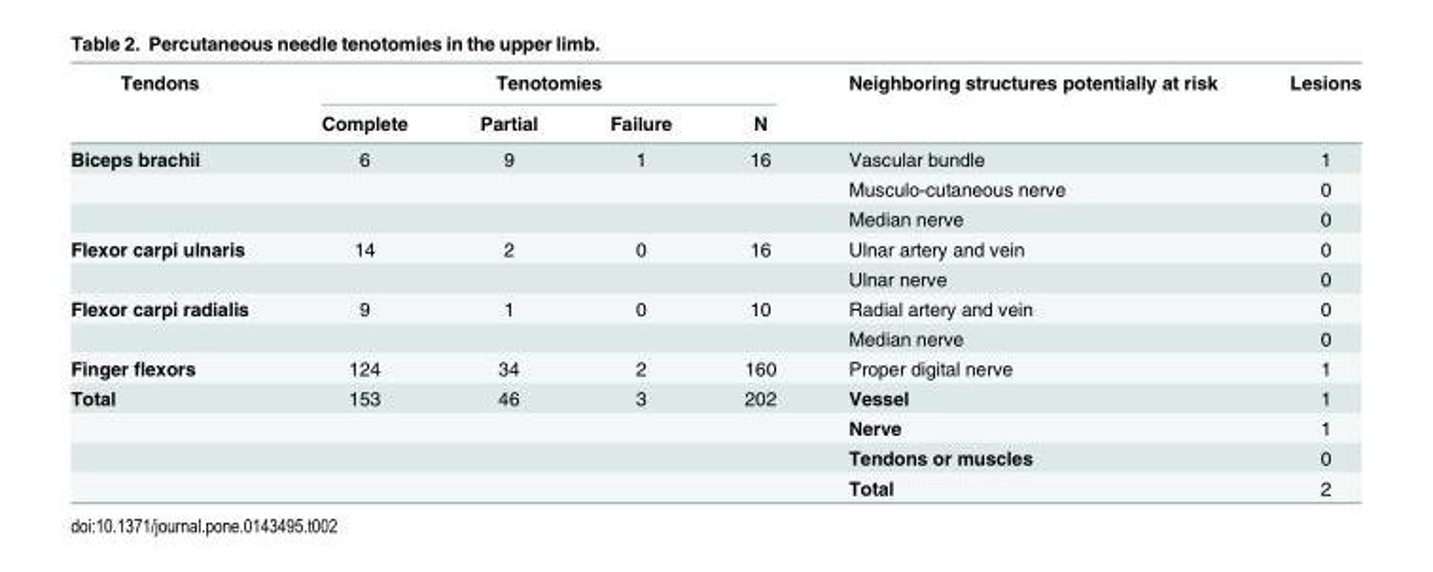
<table><thead><tr><td rowspan="2">Tendons</td><td colspan="4">Tenotomies</td><td rowspan="2">Neighboring structures potentially at risk</td><td rowspan="2">Lesions</td></tr><tr><td>Complete</td><td>Partial</td><td>Failure</td><td>N</td></tr></thead><tbody><tr><td rowspan="3">Biceps brachii</td><td>6</td><td>9</td><td>1</td><td>16</td><td>Vascular bundle</td><td>1</td></tr><tr><td></td><td></td><td></td><td></td><td>Musculo-cutaneous nerve</td><td>0</td></tr><tr><td></td><td></td><td></td><td></td><td>Median nerve</td><td>0</td></tr><tr><td rowspan="2">Flexor carpi ulnaris</td><td>14</td><td>2</td><td>0</td><td>16</td><td>Ulnar artery and vein</td><td>0</td></tr><tr><td></td><td></td><td></td><td></td><td>Ulnar nerve</td><td>0</td></tr><tr><td rowspan="2">Flexor carpi radialis</td><td>9</td><td>1</td><td>0</td><td>10</td><td>Radial artery and vein</td><td>0</td></tr><tr><td></td><td></td><td></td><td></td><td>Median nerve</td><td>0</td></tr><tr><td>Finger flexors</td><td>124</td><td>34</td><td>2</td><td>160</td><td>Proper digital nerve</td><td>1</td></tr><tr><td rowspan="4">Total</td><td>153</td><td>46</td><td>3</td><td>202</td><td>Vessel</td><td>1</td></tr><tr><td></td><td></td><td></td><td></td><td>Nerve</td><td>1</td></tr><tr><td></td><td></td><td></td><td></td><td>Tendons or muscles</td><td>0</td></tr><tr><td></td><td></td><td></td><td></td><td>Total</td><td>2</td></tr></tbody></table>